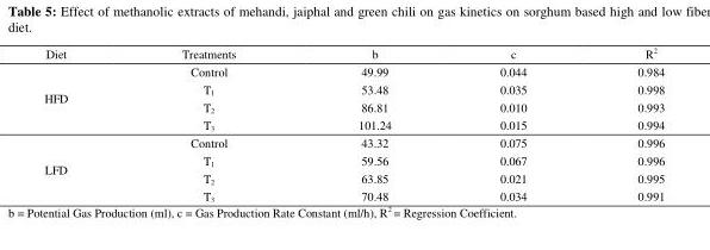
<table><thead><tr><td>Diet</td><td>Treatments</td><td>b</td><td>c</td><td>R<sup>2</sup></td></tr></thead><tbody><tr><td rowspan="4">HFD</td><td>Control</td><td>49.99</td><td>0.044</td><td>0.984</td></tr><tr><td>T<sub>1</sub></td><td>53.48</td><td>0.035</td><td>0.998</td></tr><tr><td>T<sub>2</sub></td><td>86.81</td><td>0.010</td><td>0.993</td></tr><tr><td>T<sub>3</sub></td><td>101.24</td><td>0.015</td><td>0.994</td></tr><tr><td rowspan="4">LFD</td><td>Control</td><td>43.32</td><td>0.075</td><td>0.996</td></tr><tr><td>T<sub>1</sub></td><td>59.56</td><td>0.067</td><td>0.996</td></tr><tr><td>T<sub>2</sub></td><td>63.85</td><td>0.021</td><td>0.995</td></tr><tr><td>T<sub>3</sub></td><td>70.48</td><td>0.034</td><td>0.991</td></tr></tbody></table>